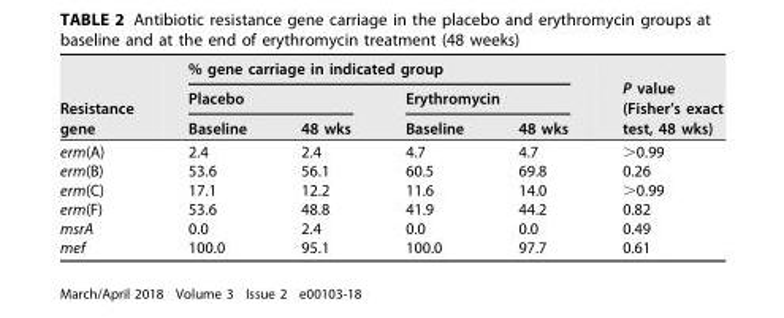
<table><thead><tr><td rowspan="3">Resistance gene</td><td colspan="4">% gene carriage in indicated group</td><td rowspan="3">P value (Fisher’s exact test, 48 wks)</td></tr><tr><td colspan="2">Placebo</td><td colspan="2">Erythromycin</td></tr><tr><td>Baseline</td><td>48 wks</td><td>Baseline</td><td>48 wks</td></tr></thead><tbody><tr><td>erm(A)</td><td>2.4</td><td>2.4</td><td>4.7</td><td>4.7</td><td>&gt;0.99</td></tr><tr><td>erm(B)</td><td>53.6</td><td>56.1</td><td>60.5</td><td>69.8</td><td>0.26</td></tr><tr><td>erm(C)</td><td>17.1</td><td>12.2</td><td>11.6</td><td>14.0</td><td>&gt;0.99</td></tr><tr><td>erm(F)</td><td>53.6</td><td>48.8</td><td>41.9</td><td>44.2</td><td>0.82</td></tr><tr><td>msrA</td><td>0.0</td><td>2.4</td><td>0.0</td><td>0.0</td><td>0.49</td></tr><tr><td>mef</td><td>100.0</td><td>95.1</td><td>100.0</td><td>97.7</td><td>0.61</td></tr></tbody></table>